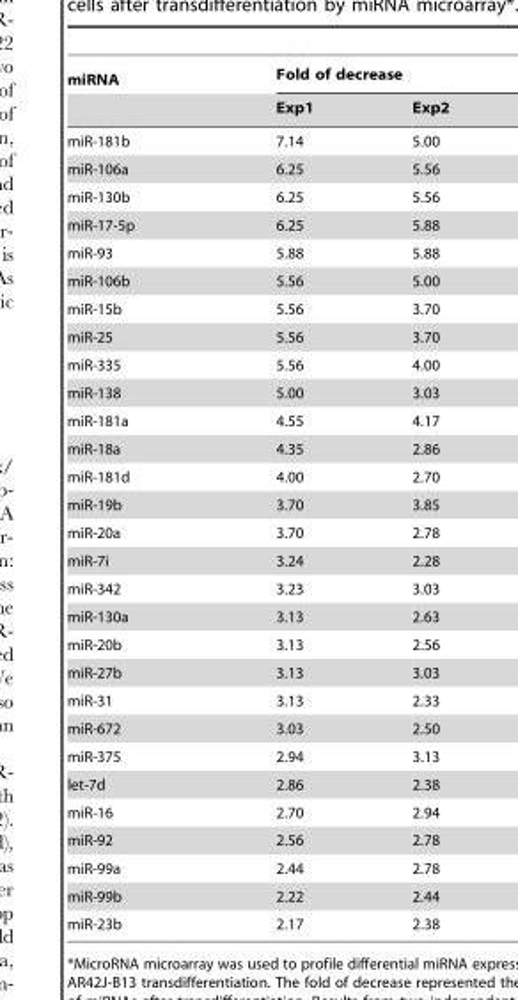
<table><thead><tr><td rowspan="2">miRNA</td><td colspan="2">Fold of decrease</td></tr><tr><td>Exp1</td><td>Exp2</td></tr></thead><tbody><tr><td>miR-181b</td><td>7.14</td><td>5.00</td></tr><tr><td>miR-106a</td><td>6.25</td><td>5.56</td></tr><tr><td>miR-130b</td><td>6.25</td><td>5.56</td></tr><tr><td>miR-17-5p</td><td>6.25</td><td>5.88</td></tr><tr><td>miR-93</td><td>5.88</td><td>5.88</td></tr><tr><td>miR-106b</td><td>5.56</td><td>5.00</td></tr><tr><td>miR-15b</td><td>5.56</td><td>3.70</td></tr><tr><td>miR-25</td><td>5.56</td><td>3.70</td></tr><tr><td>miR-335</td><td>5.56</td><td>4.00</td></tr><tr><td>miR-138</td><td>5.00</td><td>3.03</td></tr><tr><td>miR-181a</td><td>4.55</td><td>4.17</td></tr><tr><td>miR-18a</td><td>4.35</td><td>2.86</td></tr><tr><td>miR-181d</td><td>4.00</td><td>2.70</td></tr><tr><td>miR-19b</td><td>3.70</td><td>3.85</td></tr><tr><td>miR-20a</td><td>3.70</td><td>2.78</td></tr><tr><td>miR-7i</td><td>3.24</td><td>2.28</td></tr><tr><td>miR-342</td><td>3.23</td><td>3.03</td></tr><tr><td>miR-130a</td><td>3.13</td><td>2.63</td></tr><tr><td>miR-20b</td><td>3.13</td><td>2.56</td></tr><tr><td>miR-27b</td><td>3.13</td><td>3.03</td></tr><tr><td>miR-31</td><td>3.13</td><td>2.33</td></tr><tr><td>miR-672</td><td>3.03</td><td>2.50</td></tr><tr><td>miR-375</td><td>2.94</td><td>3.13</td></tr><tr><td>let-7d</td><td>2.86</td><td>2.38</td></tr><tr><td>miR-16</td><td>2.70</td><td>2.94</td></tr><tr><td>miR-92</td><td>2.56</td><td>2.78</td></tr><tr><td>miR-99a</td><td>2.44</td><td>2.78</td></tr><tr><td>miR-99b</td><td>2.22</td><td>2.44</td></tr><tr><td>miR-23b</td><td>2.17</td><td>2.38</td></tr></tbody></table>